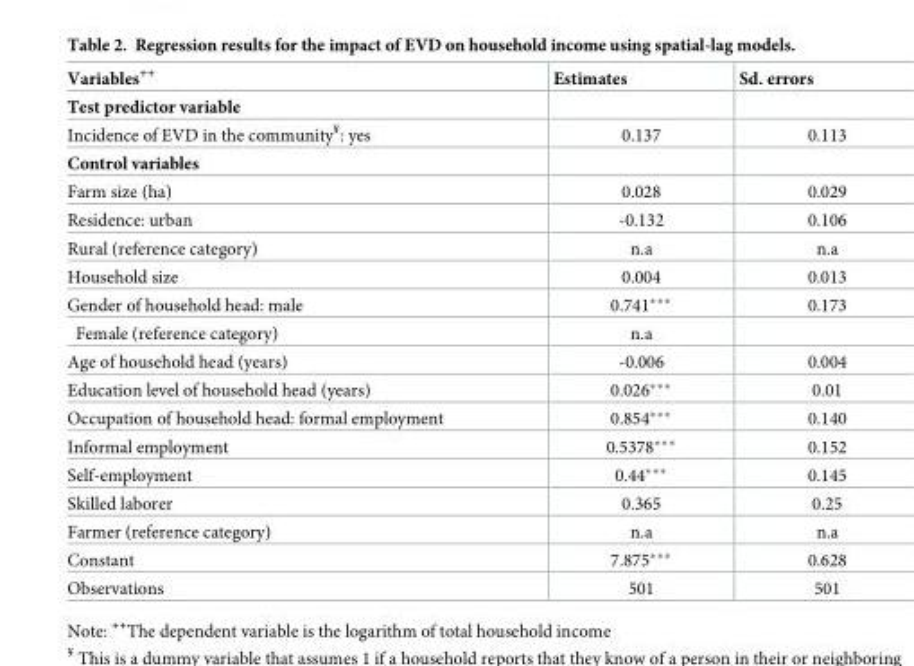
<table><thead><tr><td>Variables<sup>++</sup></td><td>Estimates</td><td>Sd. errors</td></tr></thead><tbody><tr><td colspan="3">Test predictor variable</td></tr><tr><td>Incidence of EVD in the community<sup>¥</sup>: yes</td><td>0.137</td><td>0.113</td></tr><tr><td colspan="3">Control variables</td></tr><tr><td>Farm size (ha)</td><td>0.028</td><td>0.029</td></tr><tr><td>Residence: urban</td><td>-0.132</td><td>0.106</td></tr><tr><td>Rural (reference category)</td><td>n.a</td><td>n.a</td></tr><tr><td>Household size</td><td>0.004</td><td>0.013</td></tr><tr><td>Gender of household head: male</td><td>0.741***</td><td>0.173</td></tr><tr><td>Female (reference category)</td><td>n.a</td><td></td></tr><tr><td>Age of household head (years)</td><td>-0.006</td><td>0.004</td></tr><tr><td>Education level of household head (years)</td><td>0.026***</td><td>0.01</td></tr><tr><td>Occupation of household head: formal employment</td><td>0.854***</td><td>0.140</td></tr><tr><td>Informal employment</td><td>0.5378***</td><td>0.152</td></tr><tr><td>Self-employment</td><td>0.44***</td><td>0.145</td></tr><tr><td>Skilled laborer</td><td>0.365</td><td>0.25</td></tr><tr><td>Farmer (reference category)</td><td>n.a</td><td>n.a</td></tr><tr><td>Constant</td><td>7.875***</td><td>0.628</td></tr><tr><td>Observations</td><td>501</td><td>501</td></tr></tbody></table>